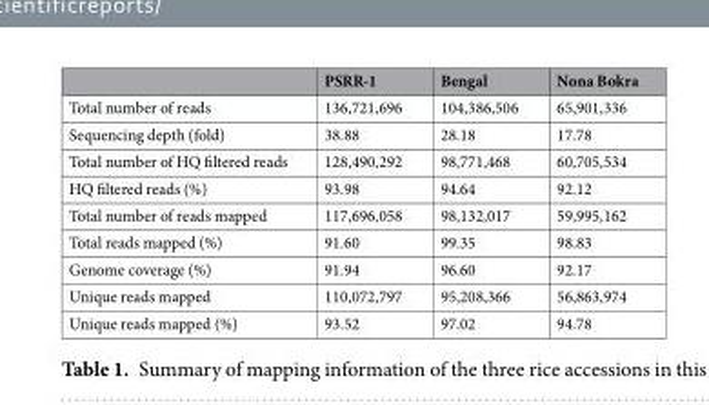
<table><thead><tr><td></td><td>PSRR-1</td><td>Bengal</td><td>Nona Bokra</td></tr></thead><tbody><tr><td>Total number of reads</td><td>136,721,696</td><td>104,386,506</td><td>65,901,336</td></tr><tr><td>Sequencing depth (fold)</td><td>38.88</td><td>28.18</td><td>17.78</td></tr><tr><td>Total number of HQ filtered reads</td><td>128,490,292</td><td>98,771,468</td><td>60,705,534</td></tr><tr><td>HQ filtered reads (%)</td><td>93.98</td><td>94.64</td><td>92.12</td></tr><tr><td>Total number of reads mapped</td><td>117,696,058</td><td>98,132,017</td><td>59,995,162</td></tr><tr><td>Total reads mapped (%)</td><td>91.60</td><td>99.35</td><td>98.83</td></tr><tr><td>Genome coverage (%)</td><td>91.94</td><td>96.60</td><td>92.17</td></tr><tr><td>Unique reads mapped</td><td>110,072,797</td><td>95,208,366</td><td>56,863,974</td></tr><tr><td>Unique reads mapped (%)</td><td>93.52</td><td>97.02</td><td>94.78</td></tr></tbody></table>